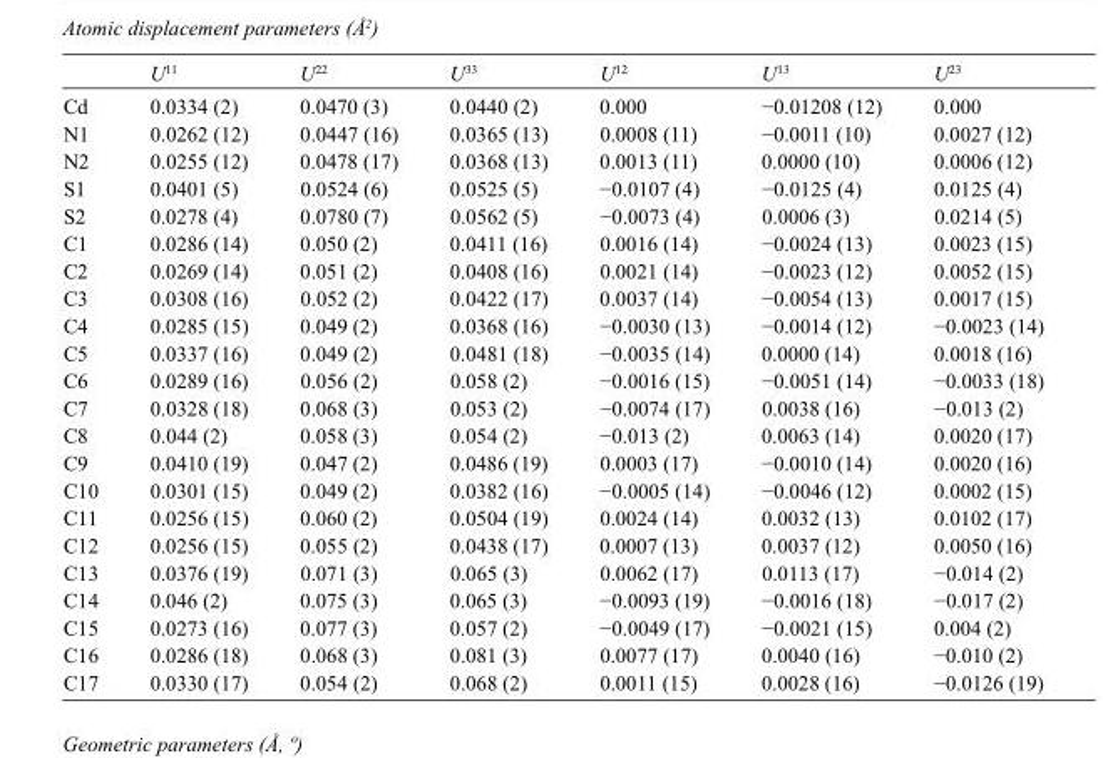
<table><thead><tr><td></td><td>U<sup>11</sup></td><td>U<sup>22</sup></td><td>U<sup>33</sup></td><td>U<sup>12</sup></td><td>U<sup>13</sup></td><td>U<sup>23</sup></td></tr></thead><tbody><tr><td>Cd</td><td>0.0334 (2)</td><td>0.0470 (3)</td><td>0.0440 (2)</td><td>0.000</td><td>−0.01208 (12)</td><td>0.000</td></tr><tr><td>N1</td><td>0.0262 (12)</td><td>0.0447 (16)</td><td>0.0365 (13)</td><td>0.0008 (11)</td><td>−0.0011 (10)</td><td>0.0027 (12)</td></tr><tr><td>N2</td><td>0.0255 (12)</td><td>0.0478 (17)</td><td>0.0368 (13)</td><td>0.0013 (11)</td><td>0.0000 (10)</td><td>0.0006 (12)</td></tr><tr><td>S1</td><td>0.0401 (5)</td><td>0.0524 (6)</td><td>0.0525 (5)</td><td>−0.0107 (4)</td><td>−0.0125 (4)</td><td>0.0125 (4)</td></tr><tr><td>S2</td><td>0.0278 (4)</td><td>0.0780 (7)</td><td>0.0562 (5)</td><td>−0.0073 (4)</td><td>0.0006 (3)</td><td>0.0214 (5)</td></tr><tr><td>C1</td><td>0.0286 (14)</td><td>0.050 (2)</td><td>0.0411 (16)</td><td>0.0016 (14)</td><td>−0.0024 (13)</td><td>0.0023 (15)</td></tr><tr><td>C2</td><td>0.0269 (14)</td><td>0.051 (2)</td><td>0.0408 (16)</td><td>0.0021 (14)</td><td>−0.0023 (12)</td><td>0.0052 (15)</td></tr><tr><td>C3</td><td>0.0308 (16)</td><td>0.052 (2)</td><td>0.0422 (17)</td><td>0.0037 (14)</td><td>−0.0054 (13)</td><td>0.0017 (15)</td></tr><tr><td>C4</td><td>0.0285 (15)</td><td>0.049 (2)</td><td>0.0368 (16)</td><td>−0.0030 (13)</td><td>−0.0014 (12)</td><td>−0.0023 (14)</td></tr><tr><td>C5</td><td>0.0337 (16)</td><td>0.049 (2)</td><td>0.0481 (18)</td><td>−0.0035 (14)</td><td>0.0000 (14)</td><td>0.0018 (16)</td></tr><tr><td>C6</td><td>0.0289 (16)</td><td>0.056 (2)</td><td>0.058 (2)</td><td>−0.0016 (15)</td><td>−0.0051 (14)</td><td>−0.0033 (18)</td></tr><tr><td>C7</td><td>0.0328 (18)</td><td>0.068 (3)</td><td>0.053 (2)</td><td>−0.0074 (17)</td><td>0.0038 (16)</td><td>−0.013 (2)</td></tr><tr><td>C8</td><td>0.044 (2)</td><td>0.058 (3)</td><td>0.054 (2)</td><td>−0.013 (2)</td><td>0.0063 (14)</td><td>0.0020 (17)</td></tr><tr><td>C9</td><td>0.0410 (19)</td><td>0.047 (2)</td><td>0.0486 (19)</td><td>0.0003 (17)</td><td>−0.0010 (14)</td><td>0.0020 (16)</td></tr><tr><td>C10</td><td>0.0301 (15)</td><td>0.049 (2)</td><td>0.0382 (16)</td><td>−0.0005 (14)</td><td>−0.0046 (12)</td><td>0.0002 (15)</td></tr><tr><td>C11</td><td>0.0256 (15)</td><td>0.060 (2)</td><td>0.0504 (19)</td><td>0.0024 (14)</td><td>0.0032 (13)</td><td>0.0102 (17)</td></tr><tr><td>C12</td><td>0.0256 (15)</td><td>0.055 (2)</td><td>0.0438 (17)</td><td>0.0007 (13)</td><td>0.0037 (12)</td><td>0.0050 (16)</td></tr><tr><td>C13</td><td>0.0376 (19)</td><td>0.071 (3)</td><td>0.065 (3)</td><td>0.0062 (17)</td><td>0.0113 (17)</td><td>−0.014 (2)</td></tr><tr><td>C14</td><td>0.046 (2)</td><td>0.075 (3)</td><td>0.065 (3)</td><td>−0.0093 (19)</td><td>−0.0016 (18)</td><td>−0.017 (2)</td></tr><tr><td>C15</td><td>0.0273 (16)</td><td>0.077 (3)</td><td>0.057 (2)</td><td>−0.0049 (17)</td><td>−0.0021 (15)</td><td>0.004 (2)</td></tr><tr><td>C16</td><td>0.0286 (18)</td><td>0.068 (3)</td><td>0.081 (3)</td><td>0.0077 (17)</td><td>0.0040 (16)</td><td>−0.010 (2)</td></tr><tr><td>C17</td><td>0.0330 (17)</td><td>0.054 (2)</td><td>0.068 (2)</td><td>0.0011 (15)</td><td>0.0028 (16)</td><td>−0.0126 (19)</td></tr></tbody></table>